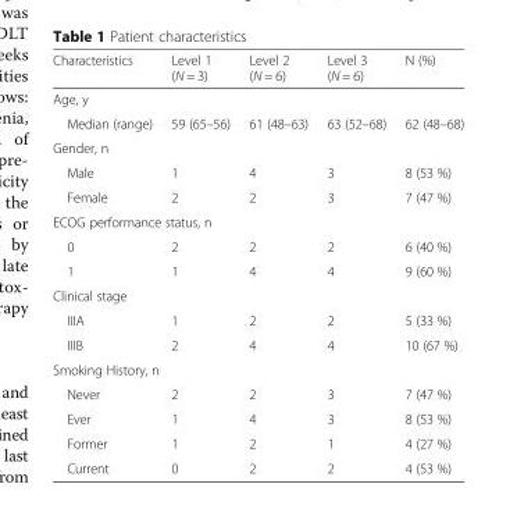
<table><thead><tr><td>Characteristics</td><td>Level 1 (N = 3)</td><td>Level 2 (N = 6)</td><td>Level 3 (N = 6)</td><td>N (%)</td></tr></thead><tbody><tr><td colspan="5">Age, y</td></tr><tr><td>Median (range)</td><td>59 (65–56)</td><td>61 (48–63)</td><td>63 (52–68)</td><td>62 (48–68)</td></tr><tr><td colspan="5">Gender, n</td></tr><tr><td>Male</td><td>1</td><td>4</td><td>3</td><td>8 (53 %)</td></tr><tr><td>Female</td><td>2</td><td>2</td><td>3</td><td>7 (47 %)</td></tr><tr><td colspan="5">ECOG performance status, n</td></tr><tr><td>0</td><td>2</td><td>2</td><td>2</td><td>6 (40 %)</td></tr><tr><td>1</td><td>1</td><td>4</td><td>4</td><td>9 (60 %)</td></tr><tr><td colspan="5">Clinical stage</td></tr><tr><td>IIIA</td><td>1</td><td>2</td><td>2</td><td>5 (33 %)</td></tr><tr><td>IIIB</td><td>2</td><td>4</td><td>4</td><td>10 (67 %)</td></tr><tr><td colspan="5">Smoking History, n</td></tr><tr><td>Never</td><td>2</td><td>2</td><td>3</td><td>7 (47 %)</td></tr><tr><td>Ever</td><td>1</td><td>4</td><td>3</td><td>8 (53 %)</td></tr><tr><td>Former</td><td>1</td><td>2</td><td>1</td><td>4 (27 %)</td></tr><tr><td>Current</td><td>0</td><td>2</td><td>2</td><td>4 (53 %)</td></tr></tbody></table>